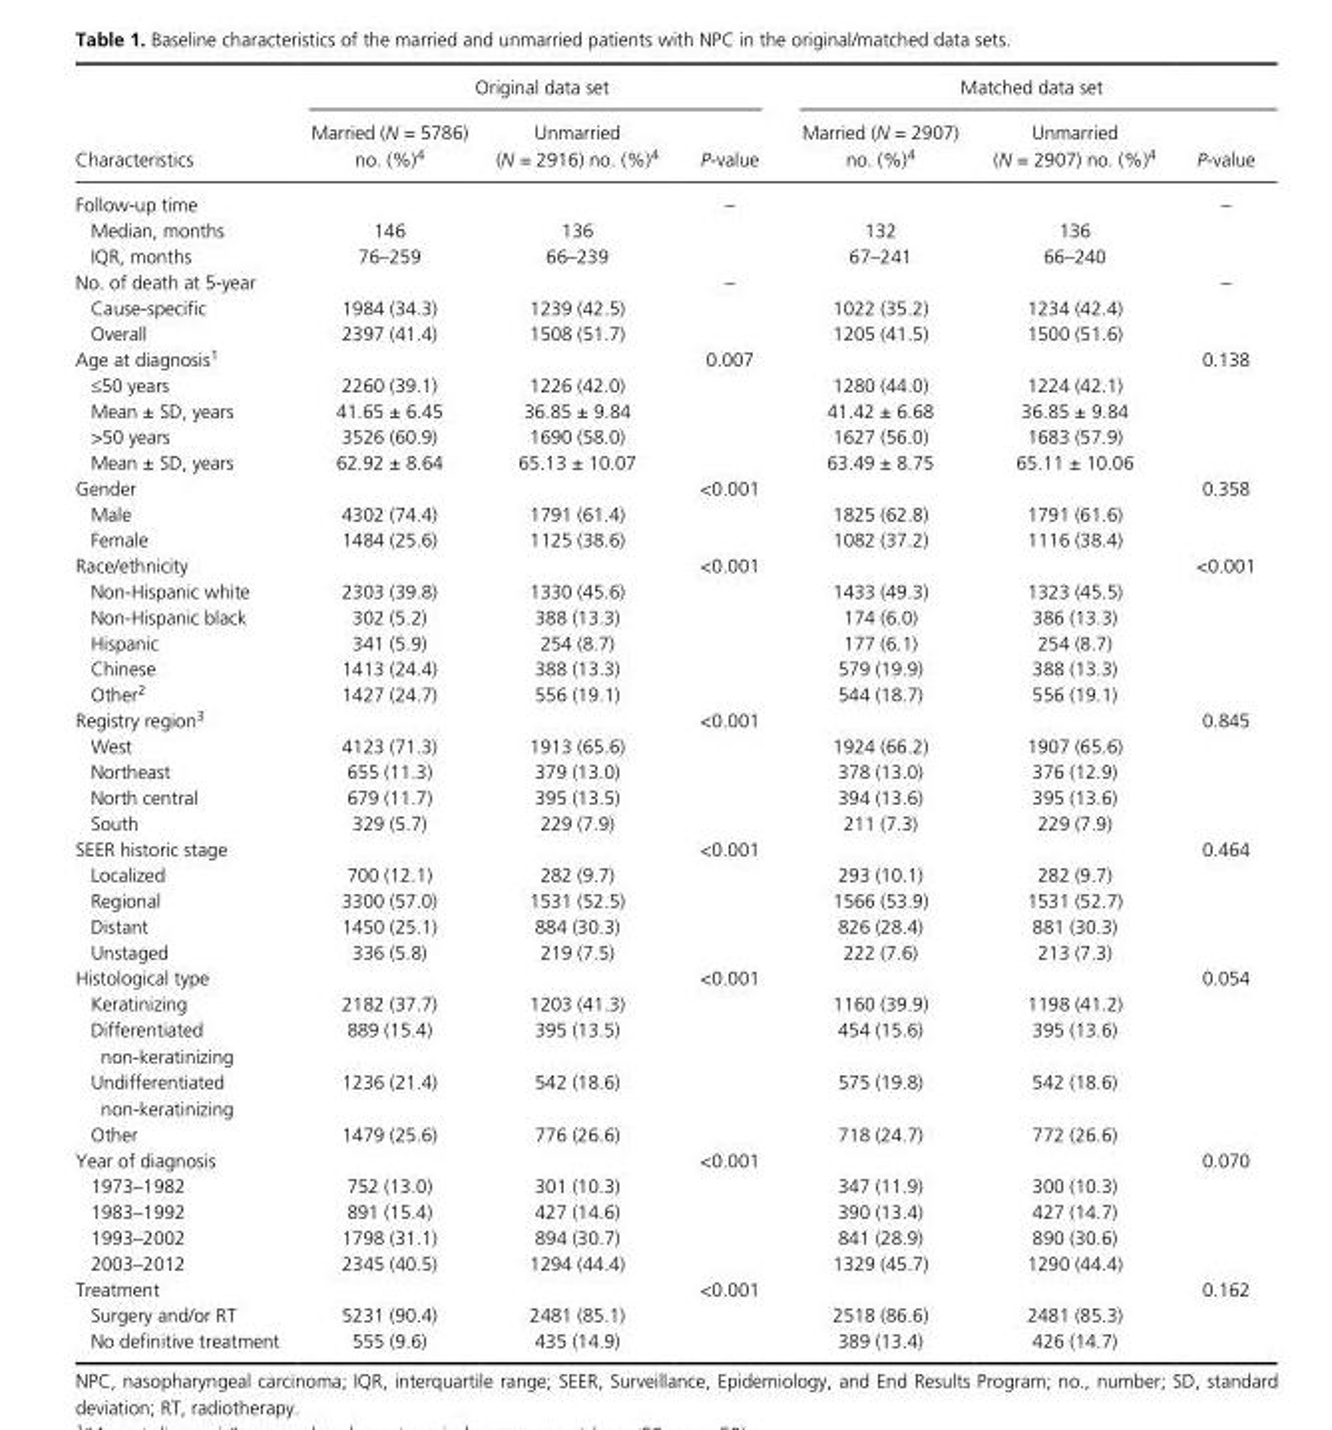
<table><thead><tr><td rowspan="2">Characteristics</td><td colspan="3">Original data set</td><td colspan="3">Matched data set</td></tr><tr><td>Married (N = 5786) no. (%)4</td><td>Unmarried (N = 2916) no. (%)4</td><td>P- value</td><td>Married (N = 2907) no. (%)4</td><td>Unmarried (N = 2907) no. (%)4</td><td>P- value</td></tr></thead><tbody><tr><td>Follow- up time</td><td></td><td></td><td>–</td><td></td><td></td><td>–</td></tr><tr><td>Median, months</td><td>146</td><td>136</td><td></td><td>132</td><td>136</td><td></td></tr><tr><td>IQR, months</td><td>76–259</td><td>66–239</td><td></td><td>67–241</td><td>66–240</td><td></td></tr><tr><td>No. of death at 5- year</td><td></td><td></td><td>–</td><td></td><td></td><td>–</td></tr><tr><td>Cause- specific</td><td>1984 (34.3)</td><td>1239 (42.5)</td><td></td><td>1022 (35.2)</td><td>1234 (42.4)</td><td></td></tr><tr><td>Overall</td><td>2397 (41.4)</td><td>1508 (51.7)</td><td></td><td>1205 (41.5)</td><td>1500 (51.6)</td><td></td></tr><tr><td>Age at diagnosis1</td><td></td><td></td><td>0.007</td><td></td><td></td><td>0.138</td></tr><tr><td>≤50 years</td><td>2260 (39.1)</td><td>1226 (42.0)</td><td></td><td>1280 (44.0)</td><td>1224 (42.1)</td><td></td></tr><tr><td>Mean ± SD, years</td><td>41.65 ± 6.45</td><td>36.85 ± 9.84</td><td></td><td>41.42 ± 6.68</td><td>36.85 ± 9.84</td><td></td></tr><tr><td>&gt;50 years</td><td>3526 (60.9)</td><td>1690 (58.0)</td><td></td><td>1627 (56.0)</td><td>1683 (57.9)</td><td></td></tr><tr><td>Mean ± SD, years</td><td>62.92 ± 8.64</td><td>65.13 ± 10.07</td><td></td><td>63.49 ± 8.75</td><td>65.11 ± 10.06</td><td></td></tr><tr><td>Gender</td><td></td><td></td><td>&lt;0.001</td><td></td><td></td><td>0.358</td></tr><tr><td>Male</td><td>4302 (74.4)</td><td>1791 (61.4)</td><td></td><td>1825 (62.8)</td><td>1791 (61.6)</td><td></td></tr><tr><td>Female</td><td>1484 (25.6)</td><td>1125 (38.6)</td><td></td><td>1082 (37.2)</td><td>1116 (38.4)</td><td></td></tr><tr><td>Race/ethnicity</td><td></td><td></td><td>&lt;0.001</td><td></td><td></td><td>&lt;0.001</td></tr><tr><td>Non- Hispanic white</td><td>2303 (39.8)</td><td>1330 (45.6)</td><td></td><td>1433 (49.3)</td><td>1323 (45.5)</td><td></td></tr><tr><td>Non- Hispanic black</td><td>302 (5.2)</td><td>388 (13.3)</td><td></td><td>174 (6.0)</td><td>386 (13.3)</td><td></td></tr><tr><td>Hispanic</td><td>341 (5.9)</td><td>254 (8.7)</td><td></td><td>177 (6.1)</td><td>254 (8.7)</td><td></td></tr><tr><td>Chinese</td><td>1413 (24.4)</td><td>388 (13.3)</td><td></td><td>579 (19.9)</td><td>388 (13.3)</td><td></td></tr><tr><td>Other2</td><td>1427 (24.7)</td><td>556 (19.1)</td><td></td><td>544 (18.7)</td><td>556 (19.1)</td><td></td></tr><tr><td>Registry region3</td><td></td><td></td><td>&lt;0.001</td><td></td><td></td><td>0.845</td></tr><tr><td>West</td><td>4123 (71.3)</td><td>1913 (65.6)</td><td></td><td>1924 (66.2)</td><td>1907 (65.6)</td><td></td></tr><tr><td>Northeast</td><td>655 (11.3)</td><td>379 (13.0)</td><td></td><td>378 (13.0)</td><td>376 (12.9)</td><td></td></tr><tr><td>North central</td><td>679 (11.7)</td><td>395 (13.5)</td><td></td><td>394 (13.6)</td><td>395 (13.6)</td><td></td></tr><tr><td>South</td><td>329 (5.7)</td><td>229 (7.9)</td><td></td><td>211 (7.3)</td><td>229 (7.9)</td><td></td></tr><tr><td>SEER historic stage</td><td></td><td></td><td>&lt;0.001</td><td></td><td></td><td>0.464</td></tr><tr><td>Localized</td><td>700 (12.1)</td><td>282 (9.7)</td><td></td><td>293 (10.1)</td><td>282 (9.7)</td><td></td></tr><tr><td>Regional</td><td>3300 (57.0)</td><td>1531 (52.5)</td><td></td><td>1566 (53.9)</td><td>1531 (52.7)</td><td></td></tr><tr><td>Distant</td><td>1450 (25.1)</td><td>884 (30.3)</td><td></td><td>826 (28.4)</td><td>881 (30.3)</td><td></td></tr><tr><td>Unstaged</td><td>336 (5.8)</td><td>219 (7.5)</td><td></td><td>222 (7.6)</td><td>213 (7.3)</td><td></td></tr><tr><td>Histological type</td><td></td><td></td><td>&lt;0.001</td><td></td><td></td><td>0.054</td></tr><tr><td>Keratinizing</td><td>2182 (37.7)</td><td>1203 (41.3)</td><td></td><td>1160 (39.9)</td><td>1198 (41.2)</td><td></td></tr><tr><td>Differentiated non- keratinizing</td><td>889 (15.4)</td><td>395 (13.5)</td><td></td><td>454 (15.6)</td><td>395 (13.6)</td><td></td></tr><tr><td>Undifferentiated non- keratinizing</td><td>1236 (21.4)</td><td>542 (18.6)</td><td></td><td>575 (19.8)</td><td>542 (18.6)</td><td></td></tr><tr><td>Other</td><td>1479 (25.6)</td><td>776 (26.6)</td><td></td><td>718 (24.7)</td><td>772 (26.6)</td><td></td></tr><tr><td>Year of diagnosis</td><td></td><td></td><td>&lt;0.001</td><td></td><td></td><td>0.070</td></tr><tr><td>1973–1982</td><td>752 (13.0)</td><td>301 (10.3)</td><td></td><td>347 (11.9)</td><td>300 (10.3)</td><td></td></tr><tr><td>1983–1992</td><td>891 (15.4)</td><td>427 (14.6)</td><td></td><td>390 (13.4)</td><td>427 (14.7)</td><td></td></tr><tr><td>1993–2002</td><td>1798 (31.1)</td><td>894 (30.7)</td><td></td><td>841 (28.9)</td><td>890 (30.6)</td><td></td></tr><tr><td>2003–2012</td><td>2345 (40.5)</td><td>1294 (44.4)</td><td></td><td>1329 (45.7)</td><td>1290 (44.4)</td><td></td></tr><tr><td>Treatment</td><td></td><td></td><td>&lt;0.001</td><td></td><td></td><td>0.162</td></tr><tr><td>Surgery and/or RT</td><td>5231 (90.4)</td><td>2481 (85.1)</td><td></td><td>2518 (86.6)</td><td>2481 (85.3)</td><td></td></tr><tr><td>No definitive treatment</td><td>555 (9.6)</td><td>435 (14.9)</td><td></td><td>389 (13.4)</td><td>426 (14.7)</td><td></td></tr></tbody></table>